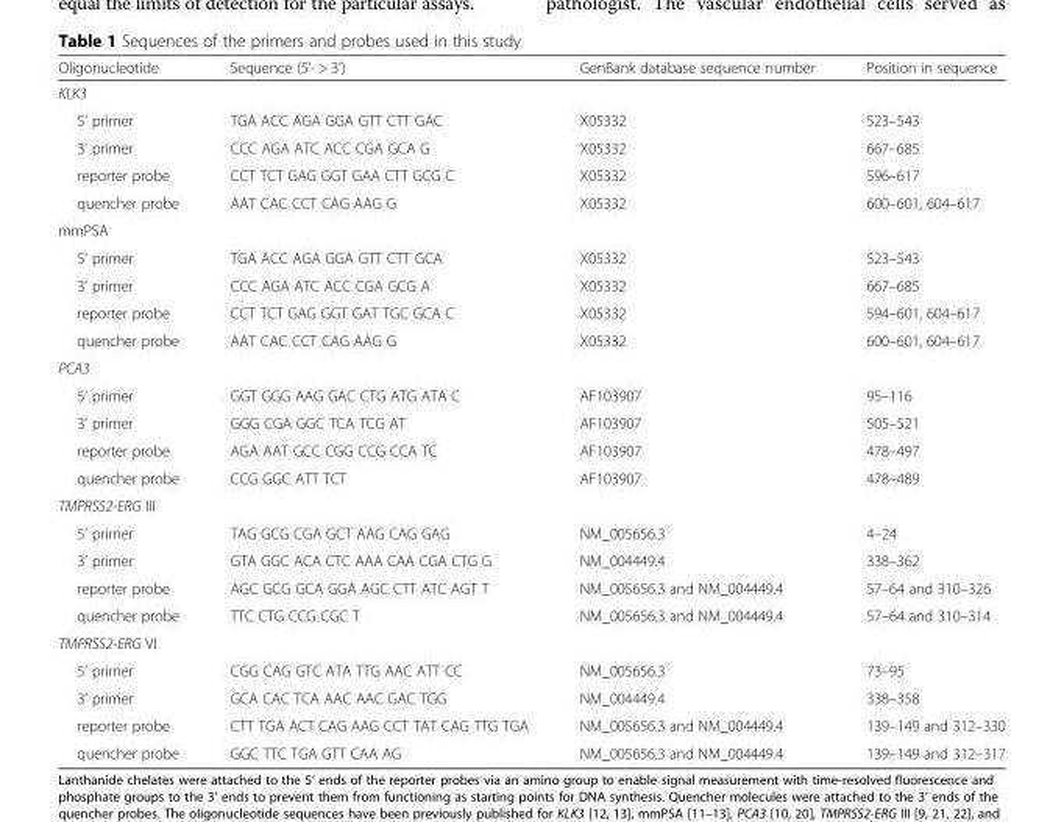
<table><thead><tr><td>Oligonucleotide</td><td>Sequence (5’- &gt; 3’)</td><td>GenBank database sequence number</td><td>Position in sequence</td></tr></thead><tbody><tr><td colspan="4">KLK3</td></tr><tr><td>5’ primer</td><td>TGA ACC AGA GGA GTT CTT GAC</td><td>X05332</td><td>523–543</td></tr><tr><td>3’ primer</td><td>CCC AGA ATC ACC CGA GCA G</td><td>X05332</td><td>667–685</td></tr><tr><td>reporter probe</td><td>CCT TCT GAG GGT GAA CTT GCG C</td><td>X05332</td><td>596–617</td></tr><tr><td>quencher probe</td><td>AAT CAC CCT CAG AAG G</td><td>X05332</td><td>600–601, 604–617</td></tr><tr><td colspan="4">mmPSA</td></tr><tr><td>5’ primer</td><td>TGA ACC AGA GGA GTT CTT GCA</td><td>X05332</td><td>523–543</td></tr><tr><td>3’ primer</td><td>CCC AGA ATC ACC CGA GCG A</td><td>X05332</td><td>667–685</td></tr><tr><td>reporter probe</td><td>CCT TCT GAG GGT GAT TGC GCA C</td><td>X05332</td><td>594–601, 604–617</td></tr><tr><td>quencher probe</td><td>AAT CAC CCT CAG AAG G</td><td>X05332</td><td>600–601, 604–617</td></tr><tr><td colspan="4">PCA3</td></tr><tr><td>5’ primer</td><td>GGT GGG AAG GAC CTG ATG ATA C</td><td>AF103907</td><td>95–116</td></tr><tr><td>3’ primer</td><td>GGG CGA GGC TCA TCG AT</td><td>AF103907</td><td>505–521</td></tr><tr><td>reporter probe</td><td>AGA AAT GCC CGG CCG CCA TC</td><td>AF103907</td><td>478–497</td></tr><tr><td>quencher probe</td><td>CCG GGC ATT TCT</td><td>AF103907</td><td>478–489</td></tr><tr><td colspan="4">TMPRSS2-ERG III</td></tr><tr><td>5’ primer</td><td>TAG GCG CGA GCT AAG CAG GAG</td><td>NM_005656.3</td><td>4–24</td></tr><tr><td>3’ primer</td><td>GTA GGC ACA CTC AAA CAA CGA CTG G</td><td>NM_004449.4</td><td>338–362</td></tr><tr><td>reporter probe</td><td>AGC GCG GCA GGA AGC CTT ATC AGT T</td><td>NM_005656.3 and NM_004449.4</td><td>57–64 and 310–326</td></tr><tr><td>quencher probe</td><td>TTC CTG CCG CGC T</td><td>NM_005656.3 and NM_004449.4</td><td>57–64 and 310–314</td></tr><tr><td colspan="4">TMPRSS2-ERG VI</td></tr><tr><td>5’ primer</td><td>CGG CAG GTC ATA TTG AAC ATT CC</td><td>NM_005656.3</td><td>73–95</td></tr><tr><td>3’ primer</td><td>GCA CAC TCA AAC AAC GAC TGG</td><td>NM_004449.4</td><td>338–358</td></tr><tr><td>reporter probe</td><td>CTT TGA ACT CAG AAG CCT TAT CAG TTG TGA</td><td>NM_005656.3 and NM_004449.4</td><td>139–149 and 312–330</td></tr><tr><td>quencher probe</td><td>GGC TTC TGA GTT CAA AG</td><td>NM_005656.3 and NM_004449.4</td><td>139–149 and 312–317</td></tr></tbody></table>